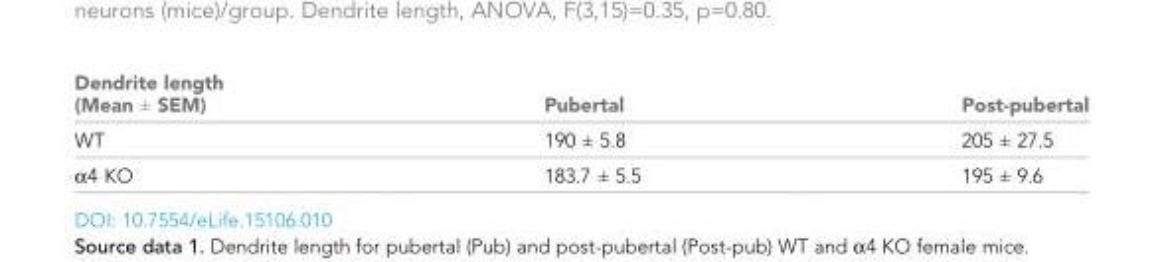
<table><thead><tr><td>Dendrite length (Mean ± SEM)</td><td>Pubertal</td><td>Post-pubertal</td></tr></thead><tbody><tr><td>WT</td><td>190 ± 5.8</td><td>205 ± 27.5</td></tr><tr><td>α4 KO</td><td>183.7 ± 5.5</td><td>195 ± 9.6</td></tr></tbody></table>